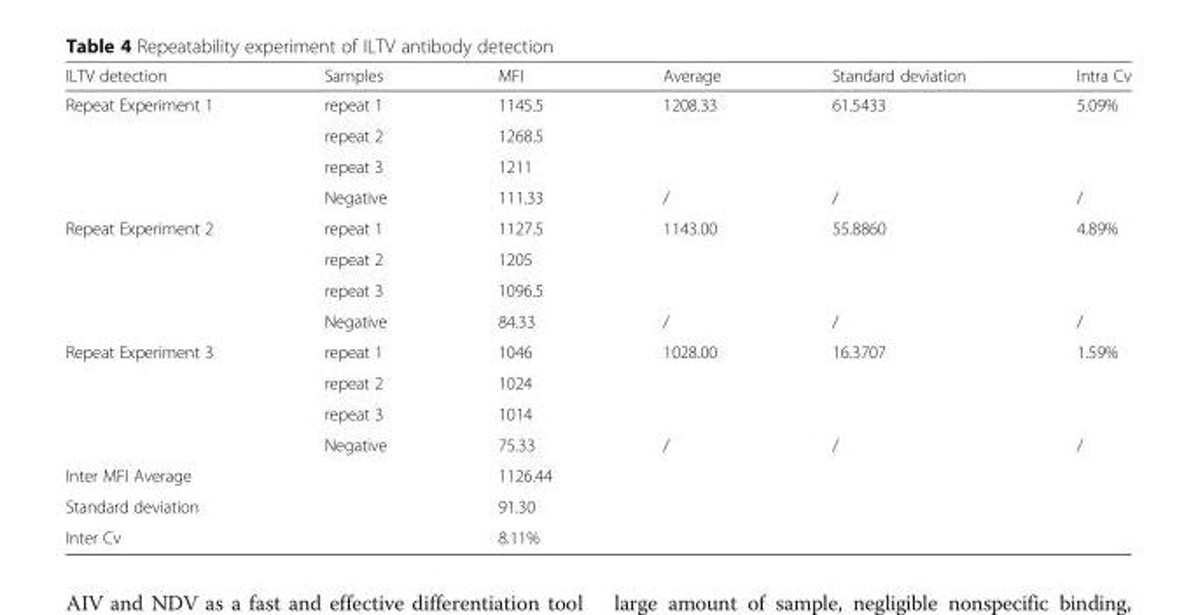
<table><thead><tr><td>ILTV detection</td><td>Samples</td><td>MFI</td><td>Average</td><td>Standard deviation</td><td>Intra Cv</td></tr></thead><tbody><tr><td rowspan="4">Repeat Experiment 1</td><td>repeat 1</td><td>1145.5</td><td rowspan="3">1208.33</td><td rowspan="3">61.5433</td><td rowspan="3">5.09%</td></tr><tr><td>repeat 2</td><td>1268.5</td></tr><tr><td>repeat 3</td><td>1211</td></tr><tr><td>Negative</td><td>111.33</td><td>/</td><td>/</td><td>/</td></tr><tr><td rowspan="4">Repeat Experiment 2</td><td>repeat 1</td><td>1127.5</td><td rowspan="3">1143.00</td><td rowspan="3">55.8860</td><td rowspan="3">4.89%</td></tr><tr><td>repeat 2</td><td>1205</td></tr><tr><td>repeat 3</td><td>1096.5</td></tr><tr><td>Negative</td><td>84.33</td><td>/</td><td>/</td><td>/</td></tr><tr><td rowspan="4">Repeat Experiment 3</td><td>repeat 1</td><td>1046</td><td rowspan="3">1028.00</td><td rowspan="3">16.3707</td><td rowspan="3">1.59%</td></tr><tr><td>repeat 2</td><td>1024</td></tr><tr><td>repeat 3</td><td>1014</td></tr><tr><td>Negative</td><td>75.33</td><td>/</td><td>/</td><td>/</td></tr><tr><td colspan="2">Inter MFI Average</td><td>1126.44</td><td></td><td></td><td></td></tr><tr><td colspan="2">Standard deviation</td><td>91.30</td><td></td><td></td><td></td></tr><tr><td colspan="2">Inter Cv</td><td>8.11%</td><td></td><td></td><td></td></tr></tbody></table>